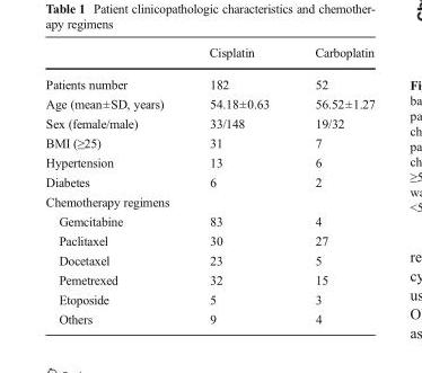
<table><thead><tr><td></td><td>Cisplatin</td><td>Carboplatin</td></tr></thead><tbody><tr><td>Patients number</td><td>182</td><td>52</td></tr><tr><td>Age (mean±SD, years)</td><td>54.18±0.63</td><td>56.52±1.27</td></tr><tr><td>Sex (female/male)</td><td>33/148</td><td>19/32</td></tr><tr><td>BMI (≥25)</td><td>31</td><td>7</td></tr><tr><td>Hypertension</td><td>13</td><td>6</td></tr><tr><td>Diabetes</td><td>6</td><td>2</td></tr><tr><td colspan="3">Chemotherapy regimens</td></tr><tr><td>Gemcitabine</td><td>83</td><td>4</td></tr><tr><td>Paclitaxel</td><td>30</td><td>27</td></tr><tr><td>Docetaxel</td><td>23</td><td>5</td></tr><tr><td>Pemetrexed</td><td>32</td><td>15</td></tr><tr><td>Etoposide</td><td>5</td><td>3</td></tr><tr><td>Others</td><td>9</td><td>4</td></tr></tbody></table>